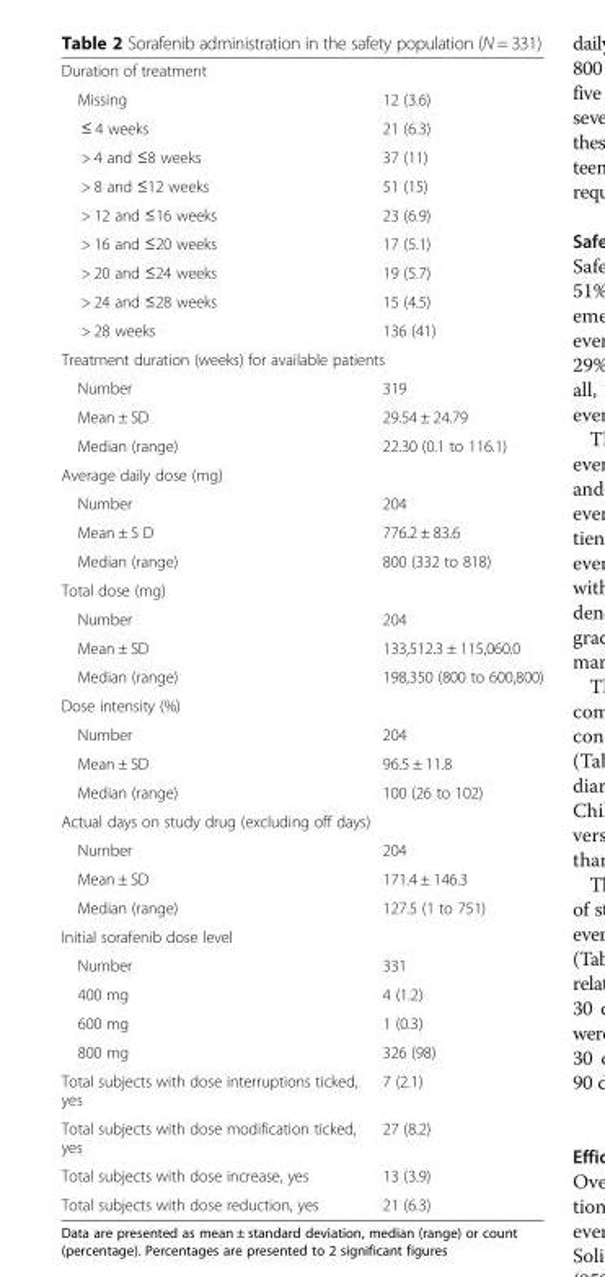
<table><tbody><tr><td colspan="2">Duration of treatment</td></tr><tr><td>Missing</td><td>12 (3.6)</td></tr><tr><td>≤ 4 weeks</td><td>21 (6.3)</td></tr><tr><td>&gt; 4 and ≤8 weeks</td><td>37 (11)</td></tr><tr><td>&gt; 8 and ≤12 weeks</td><td>51 (15)</td></tr><tr><td>&gt; 12 and ≤16 weeks</td><td>23 (6.9)</td></tr><tr><td>&gt; 16 and ≤20 weeks</td><td>17 (5.1)</td></tr><tr><td>&gt; 20 and ≤24 weeks</td><td>19 (5.7)</td></tr><tr><td>&gt; 24 and ≤28 weeks</td><td>15 (4.5)</td></tr><tr><td>&gt; 28 weeks</td><td>136 (41)</td></tr><tr><td colspan="2">Treatment duration (weeks) for available patients</td></tr><tr><td>Number</td><td>319</td></tr><tr><td>Mean ± SD</td><td>29.54 ± 24.79</td></tr><tr><td>Median (range)</td><td>22.30 (0.1 to 116.1)</td></tr><tr><td colspan="2">Average daily dose (mg)</td></tr><tr><td>Number</td><td>204</td></tr><tr><td>Mean ± S D</td><td>776.2 ± 83.6</td></tr><tr><td>Median (range)</td><td>800 (332 to 818)</td></tr><tr><td colspan="2">Total dose (mg)</td></tr><tr><td>Number</td><td>204</td></tr><tr><td>Mean ± SD</td><td>133,512.3 ± 115,060.0</td></tr><tr><td>Median (range)</td><td>198,350 (800 to 600,800)</td></tr><tr><td colspan="2">Dose intensity (%)</td></tr><tr><td>Number</td><td>204</td></tr><tr><td>Mean ± SD</td><td>96.5 ± 11.8</td></tr><tr><td>Median (range)</td><td>100 (26 to 102)</td></tr><tr><td colspan="2">Actual days on study drug (excluding off days)</td></tr><tr><td>Number</td><td>204</td></tr><tr><td>Mean ± SD</td><td>171.4 ± 146.3</td></tr><tr><td>Median (range)</td><td>127.5 (1 to 751)</td></tr><tr><td colspan="2">Initial sorafenib dose level</td></tr><tr><td>Number</td><td>331</td></tr><tr><td>400 mg</td><td>4 (1.2)</td></tr><tr><td>600 mg</td><td>1 (0.3)</td></tr><tr><td>800 mg</td><td>326 (98)</td></tr><tr><td>Total subjects with dose interruptions ticked, yes</td><td>7 (2.1)</td></tr><tr><td>Total subjects with dose modification ticked, yes</td><td>27 (8.2)</td></tr><tr><td>Total subjects with dose increase, yes</td><td>13 (3.9)</td></tr><tr><td>Total subjects with dose reduction, yes</td><td>21 (6.3)</td></tr></tbody></table>